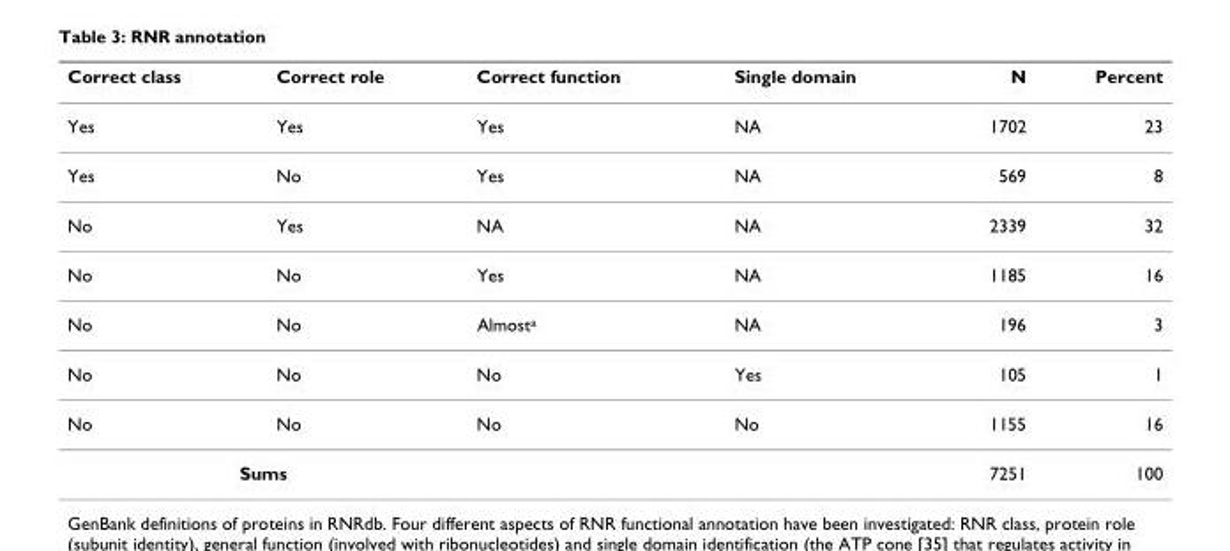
<table><thead><tr><td>Correct class</td><td>Correct role</td><td>Correct function</td><td>Single domain</td><td>N</td><td>Percent</td></tr></thead><tbody><tr><td>Yes</td><td>Yes</td><td>Yes</td><td>NA</td><td>1702</td><td>23</td></tr><tr><td>Yes</td><td>No</td><td>Yes</td><td>NA</td><td>569</td><td>8</td></tr><tr><td>No</td><td>Yes</td><td>NA</td><td>NA</td><td>2339</td><td>32</td></tr><tr><td>No</td><td>No</td><td>Yes</td><td>NA</td><td>1185</td><td>16</td></tr><tr><td>No</td><td>No</td><td>Almost<sup>a</sup></td><td>NA</td><td>196</td><td>3</td></tr><tr><td>No</td><td>No</td><td>No</td><td>Yes</td><td>105</td><td>1</td></tr><tr><td>No</td><td>No</td><td>No</td><td>No</td><td>1155</td><td>16</td></tr><tr><td colspan="2">Sums</td><td></td><td></td><td>7251</td><td>100</td></tr></tbody></table>